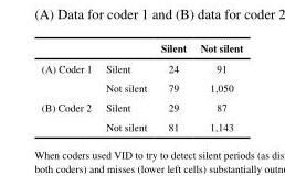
<table><thead><tr><td></td><td></td><td>Silent</td><td>Not silent</td></tr></thead><tbody><tr><td rowspan="2">(A) Coder 1</td><td>Silent</td><td>24</td><td>91</td></tr><tr><td>Not silent</td><td>79</td><td>1,050</td></tr><tr><td rowspan="2">(B) Coder 2</td><td>Silent</td><td>29</td><td>87</td></tr><tr><td>Not silent</td><td>81</td><td>1,143</td></tr></tbody></table>